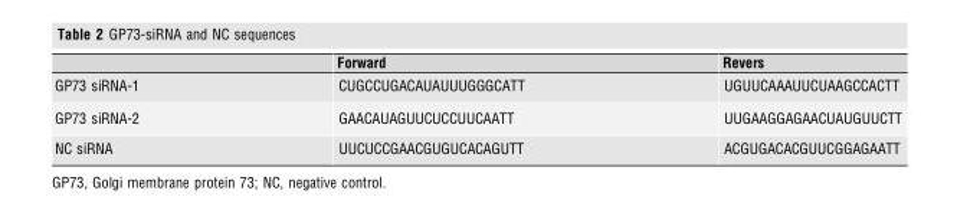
<table><thead><tr><td></td><td>Forward</td><td>Revers</td></tr></thead><tbody><tr><td>GP73 siRNA-1</td><td>CUGCCUGACAUAUUUGGGCATT</td><td>UGUUCAAAUUCUAAGCCACTT</td></tr><tr><td>GP73 siRNA-2</td><td>GAACAUAGUUCUCCUUCAATT</td><td>UUGAAGGAGAACUAUGUUCTT</td></tr><tr><td>NC siRNA</td><td>UUCUCCGAACGUGUCACAGUTT</td><td>ACGUGACACGUUCGGAGAATT</td></tr></tbody></table>